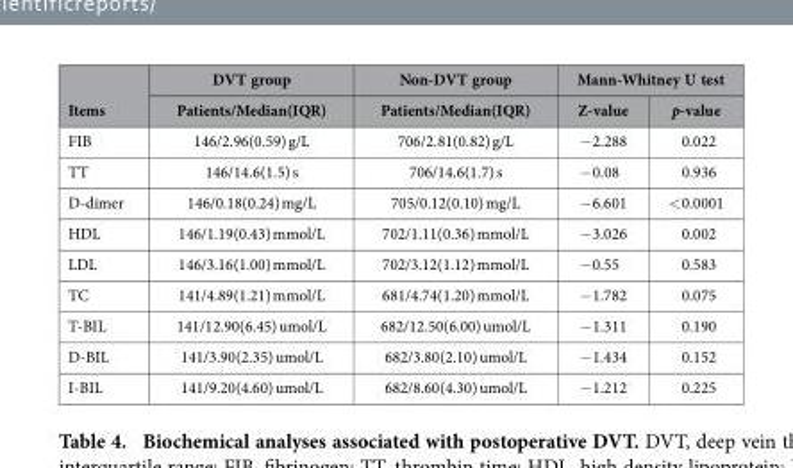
<table><thead><tr><td rowspan="2">Items</td><td rowspan="2">DVT group Patients/Median(IQR)</td><td rowspan="2">Non-DVT group Patients/Median(IQR)</td><td colspan="2">Mann-Whitney U test</td></tr><tr><td>Z-value</td><td>p-value</td></tr></thead><tbody><tr><td>FIB</td><td>146/2.96(0.59) g/L</td><td>706/2.81(0.82) g/L</td><td>− 2.288</td><td>0.022</td></tr><tr><td>TT</td><td>146/14.6(1.5) s</td><td>706/14.6(1.7) s</td><td>− 0.08</td><td>0.936</td></tr><tr><td>D-dimer</td><td>146/0.18(0.24) mg/L</td><td>705/0.12(0.10) mg/L</td><td>− 6.601</td><td>&lt; 0.0001</td></tr><tr><td>HDL</td><td>146/1.19(0.43) mmol/L</td><td>702/1.11(0.36) mmol/L</td><td>− 3.026</td><td>0.002</td></tr><tr><td>LDL</td><td>146/3.16(1.00) mmol/L</td><td>702/3.12(1.12) mmol/L</td><td>− 0.55</td><td>0.583</td></tr><tr><td>TC</td><td>141/4.89(1.21) mmol/L</td><td>681/4.74(1.20) mmol/L</td><td>− 1.782</td><td>0.075</td></tr><tr><td>T-BIL</td><td>141/12.90(6.45) umol/L</td><td>682/12.50(6.00) umol/L</td><td>− 1.311</td><td>0.190</td></tr><tr><td>D-BIL</td><td>141/3.90(2.35) umol/L</td><td>682/3.80(2.10) umol/L</td><td>− 1.434</td><td>0.152</td></tr><tr><td>I-BIL</td><td>141/9.20(4.60) umol/L</td><td>682/8.60(4.30) umol/L</td><td>− 1.212</td><td>0.225</td></tr></tbody></table>